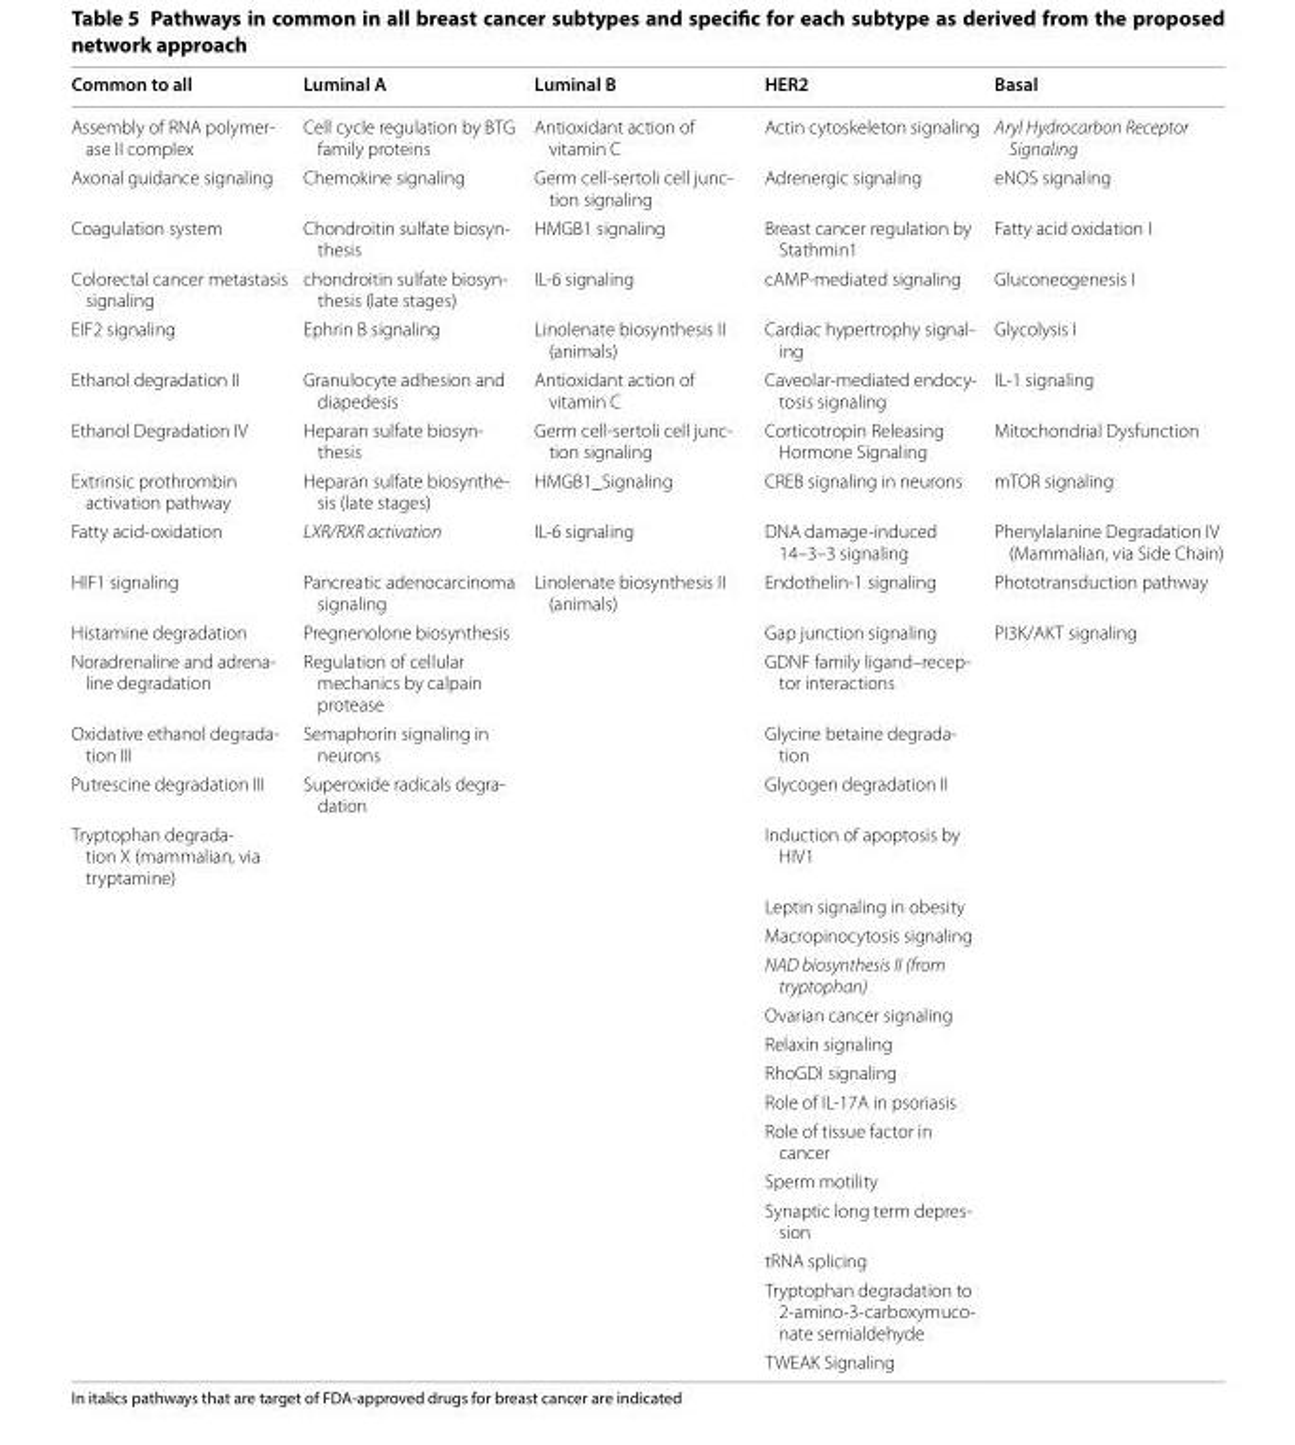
<table><thead><tr><td>Common to all</td><td>Luminal A</td><td>Luminal B</td><td>HER2</td><td>Basal</td></tr></thead><tbody><tr><td>Assembly of RNA polymer- ase II complex</td><td>Cell cycle regulation by BTG family proteins</td><td>Antioxidant action of vitamin C</td><td>Actin cytoskeleton signaling</td><td>Aryl Hydrocarbon Receptor Signaling</td></tr><tr><td>Axonal guidance signaling</td><td>Chemokine signaling</td><td>Germ cell-sertoli cell junc- tion signaling</td><td>Adrenergic signaling</td><td>eNOS signaling</td></tr><tr><td>Coagulation system</td><td>Chondroitin sulfate biosyn- thesis</td><td>HMGB1 signaling</td><td>Breast cancer regulation by Stathmin1</td><td>Fatty acid oxidation I</td></tr><tr><td>Colorectal cancer metastasis signaling</td><td>chondroitin sulfate biosyn- thesis (late stages)</td><td>IL-6 signaling</td><td>cAMP-mediated signaling</td><td>Gluconeogenesis I</td></tr><tr><td>EIF2 signaling</td><td>Ephrin B signaling</td><td>Linolenate biosynthesis II (animals)</td><td>Cardiac hypertrophy signal- ing</td><td>Glycolysis I</td></tr><tr><td>Ethanol degradation II</td><td>Granulocyte adhesion and diapedesis</td><td>Antioxidant action of vitamin C</td><td>Caveolar-mediated endocy- tosis signaling</td><td>IL-1 signaling</td></tr><tr><td>Ethanol Degradation IV</td><td>Heparan sulfate biosyn- thesis</td><td>Germ cell-sertoli cell junc- tion signaling</td><td>Corticotropin Releasing Hormone Signaling</td><td>Mitochondrial Dysfunction</td></tr><tr><td>Extrinsic prothrombin activation pathway</td><td>Heparan sulfate biosynthe- sis (late stages)</td><td>HMGB1_Signaling</td><td>CREB signaling in neurons</td><td>mTOR signaling</td></tr><tr><td>Fatty acid-oxidation</td><td>LXR/RXR activation</td><td>IL-6 signaling</td><td>DNA damage-induced 14–3–3 signaling</td><td>Phenylalanine Degradation IV (Mammalian, via Side Chain)</td></tr><tr><td>HIF1 signaling</td><td>Pancreatic adenocarcinoma signaling</td><td>Linolenate biosynthesis II (animals)</td><td>Endothelin-1 signaling</td><td>Phototransduction pathway</td></tr><tr><td>Histamine degradation</td><td>Pregnenolone biosynthesis</td><td></td><td>Gap junction signaling</td><td>PI3K/AKT signaling</td></tr><tr><td>Noradrenaline and adrena- line degradation</td><td>Regulation of cellular mechanics by calpain protease</td><td></td><td>GDNF family ligand–recep- tor interactions</td><td></td></tr><tr><td>Oxidative ethanol degrada- tion III</td><td>Semaphorin signaling in neurons</td><td></td><td>Glycine betaine degrada- tion</td><td></td></tr><tr><td>Putrescine degradation III</td><td>Superoxide radicals degra- dation</td><td></td><td>Glycogen degradation II</td><td></td></tr><tr><td rowspan="14">Tryptophan degrada- tion X (mammalian, via tryptamine)</td><td></td><td></td><td>Induction of apoptosis by HIV1</td><td></td></tr><tr><td></td><td></td><td>Leptin signaling in obesity</td><td></td></tr><tr><td></td><td></td><td>Macropinocytosis signaling</td><td></td></tr><tr><td></td><td></td><td>NAD biosynthesis II (from tryptophan)</td><td></td></tr><tr><td></td><td></td><td>Ovarian cancer signaling</td><td></td></tr><tr><td></td><td></td><td>Relaxin signaling</td><td></td></tr><tr><td></td><td></td><td>RhoGDI signaling</td><td></td></tr><tr><td></td><td></td><td>Role of IL-17A in psoriasis</td><td></td></tr><tr><td></td><td></td><td>Role of tissue factor in cancer</td><td></td></tr><tr><td></td><td></td><td>Sperm motility</td><td></td></tr><tr><td></td><td></td><td>Synaptic long term depres- sion</td><td></td></tr><tr><td></td><td></td><td>tRNA splicing</td><td></td></tr><tr><td></td><td></td><td>Tryptophan degradation to 2-amino-3-carboxymuco- nate semialdehyde</td><td></td></tr><tr><td></td><td></td><td>TWEAK Signaling</td><td></td></tr></tbody></table>